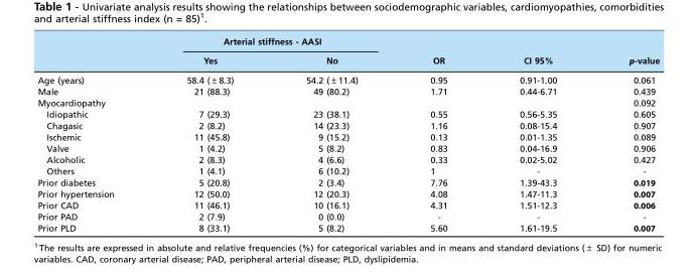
<table><thead><tr><td rowspan="2"></td><td colspan="2">Arterial stiffness - AASI</td><td rowspan="2">OR</td><td rowspan="2">CI 95%</td><td rowspan="2">p-value</td></tr><tr><td>Yes</td><td>No</td></tr></thead><tbody><tr><td>Age (years)</td><td>58.4 (±8.3)</td><td>54.2 (±11.4)</td><td>0.95</td><td>0.91-1.00</td><td>0.061</td></tr><tr><td>Male</td><td>21 (88.3)</td><td>49 (80.2)</td><td>1.71</td><td>0.44-6.71</td><td>0.439</td></tr><tr><td>Myocardiopathy</td><td></td><td></td><td></td><td></td><td>0.092</td></tr><tr><td>Idiopathic</td><td>7 (29.3)</td><td>23 (38.1)</td><td>0.55</td><td>0.56-5.35</td><td>0.605</td></tr><tr><td>Chagasic</td><td>2 (8.2)</td><td>14 (23.3)</td><td>1.16</td><td>0.08-15.4</td><td>0.907</td></tr><tr><td>Ischemic</td><td>11 (45.8)</td><td>9 (15.2)</td><td>0.13</td><td>0.01-1.35</td><td>0.089</td></tr><tr><td>Valve</td><td>1 (4.2)</td><td>5 (8.2)</td><td>0.83</td><td>0.04-16.9</td><td>0.906</td></tr><tr><td>Alcoholic</td><td>2 (8.3)</td><td>4 (6.6)</td><td>0.33</td><td>0.02-5.02</td><td>0.427</td></tr><tr><td>Others</td><td>1 (4.1)</td><td>6 (10.2)</td><td>1</td><td>-</td><td>-</td></tr><tr><td>Prior diabetes</td><td>5 (20.8)</td><td>2 (3.4)</td><td>7.76</td><td>1.39-43.3</td><td>0.019</td></tr><tr><td>Prior hypertension</td><td>12 (50.0)</td><td>12 (20.3)</td><td>4.08</td><td>1.47-11.3</td><td>0.007</td></tr><tr><td>Prior CAD</td><td>11 (46.1)</td><td>10 (16.1)</td><td>4.31</td><td>1.51-12.3</td><td>0.006</td></tr><tr><td>Prior PAD</td><td>2 (7.9)</td><td>0 (0.0)</td><td>-</td><td>-</td><td>-</td></tr><tr><td>Prior PLD</td><td>8 (33.1)</td><td>5 (8.2)</td><td>5.60</td><td>1.61-19.5</td><td>0.007</td></tr></tbody></table>